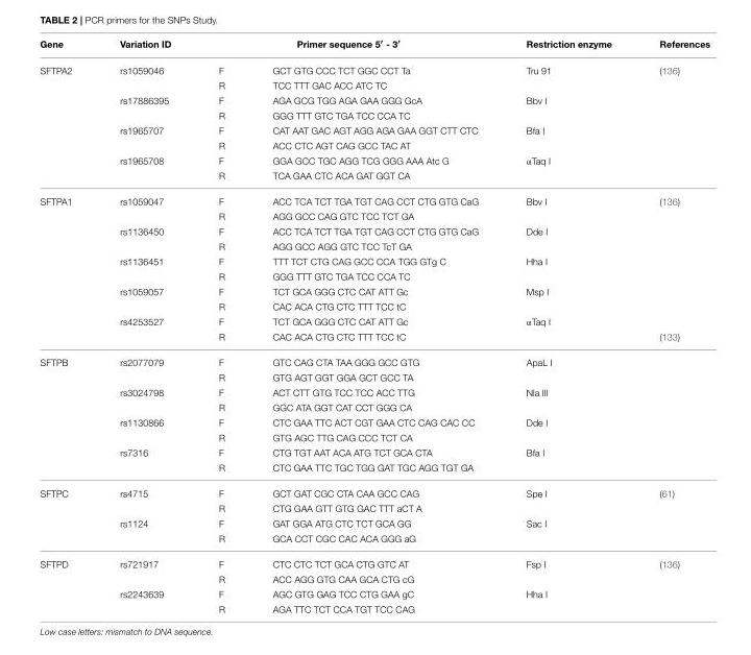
<table><thead><tr><td rowspan="2">Gene SFTPA2</td><td rowspan="2">Variation ID rs1059046</td><td colspan="2">Primer sequence 5<sup>′</sup> - 3<sup>′</sup></td><td rowspan="2">Restriction enzyme Tru 91</td><td rowspan="2">References (136)</td></tr><tr><td>F</td><td>GCT GTG CCC TCT GGC CCT Ta</td></tr></thead><tbody><tr><td></td><td></td><td>R</td><td>TCC TTT GAC ACC ATC TC</td><td></td><td></td></tr><tr><td></td><td>rs17886395</td><td>F</td><td>AGA GCG TGG AGA GAA GGG GcA</td><td>Bbv I</td><td></td></tr><tr><td></td><td></td><td>R</td><td>GGG TTT GTC TGA TCC CCA TC</td><td></td><td></td></tr><tr><td></td><td>rs1965707</td><td>F</td><td>CAT AAT GAC AGT AGG AGA GAA GGT CTT CTC</td><td>Bfa I</td><td></td></tr><tr><td></td><td></td><td>R</td><td>ACC CTC AGT CAG GCC TAC AT</td><td></td><td></td></tr><tr><td></td><td>rs1965708</td><td>F</td><td>GGA GCC TGC AGG TCG GGG AAA Atc G</td><td>αTaq I</td><td></td></tr><tr><td></td><td></td><td>R</td><td>TCA GAA CTC ACA GAT GGT CA</td><td></td><td></td></tr><tr><td rowspan="10">SFTPA1</td><td>rs1059047</td><td>F</td><td>ACC TCA TCT TGA TGT CAG CCT CTG GTG CaG</td><td>Bbv I</td><td>(136)</td></tr><tr><td></td><td>R</td><td>AGG GCC CAG GTC TCC TCT GA</td><td></td><td></td></tr><tr><td>rs1136450</td><td>F</td><td>ACC TCA TCT TGA TGT CAG CCT CTG GTG CaG</td><td>Dde I</td><td></td></tr><tr><td></td><td>R</td><td>AGG GCC AGG GTC TCC TcT GA</td><td></td><td></td></tr><tr><td>rs1136451</td><td>F</td><td>TTT TCT CTG CAG GCC CCA TGG GTg C</td><td>Hha I</td><td></td></tr><tr><td></td><td>R</td><td>GGG TTT GTC TGA TCC CCA TC</td><td></td><td></td></tr><tr><td>rs1059057</td><td>F</td><td>TCT GCA GGG CTC CAT ATT Gc</td><td>Msp I</td><td></td></tr><tr><td></td><td>R</td><td>CAC ACA CTG CTC TTT TCC tC</td><td></td><td></td></tr><tr><td>rs4253527</td><td>F</td><td>TCT GCA GGG CTC CAT ATT Gc</td><td>αTaq I</td><td></td></tr><tr><td></td><td>R</td><td>CAC ACA CTG CTC TTT TCC tC</td><td></td><td>(133)</td></tr><tr><td rowspan="8">SFTPB</td><td>rs2077079</td><td>F</td><td>GTC CAG CTA TAA GGG GCC GTG</td><td>ApaL I</td><td></td></tr><tr><td></td><td>R</td><td>GTG AGT GGT GGA GCT GCC TA</td><td></td><td></td></tr><tr><td>rs3024798</td><td>F</td><td>ACT CTT GTG TCC TCC ACC TTG</td><td>Nla III</td><td></td></tr><tr><td></td><td>R</td><td>GGC ATA GGT CAT CCT GGG CA</td><td></td><td></td></tr><tr><td>rs1130866</td><td>F</td><td>CTC GAA TTC ACT CGT GAA CTC CAG CAC CC</td><td>Dde I</td><td></td></tr><tr><td></td><td>R</td><td>GTG AGC TTG CAG CCC TCT CA</td><td></td><td></td></tr><tr><td>rs7316</td><td>F</td><td>CTG TGT AAT ACA ATG TCT GCA CTA</td><td>Bfa I</td><td></td></tr><tr><td></td><td>R</td><td>CTC GAA TTC TGC TGG GAT TGC AGG TGT GA</td><td></td><td></td></tr><tr><td rowspan="4">SFTPC</td><td>rs4715</td><td>F</td><td>GCT GAT CGC CTA CAA GCC CAG</td><td>Spe I</td><td>(61)</td></tr><tr><td></td><td>R</td><td>CTG GAA GTT GTG GAC TTT aCT A</td><td></td><td></td></tr><tr><td>rs1124</td><td>F</td><td>GAT GGA ATG CTC TCT GCA GG</td><td>Sac I</td><td></td></tr><tr><td></td><td>R</td><td>GCA CCT CGC CAC ACA GGG aG</td><td></td><td></td></tr><tr><td rowspan="4">SFTPD</td><td>rs721917</td><td>F</td><td>CTC CTC TCT GCA CTG GTC AT</td><td>Fsp I</td><td>(136)</td></tr><tr><td></td><td>R</td><td>ACC AGG GTG CAA GCA CTG cG</td><td></td><td></td></tr><tr><td>rs2243639</td><td>F</td><td>AGC GTG GAG TCC CTG GAA gC</td><td>Hha I</td><td></td></tr><tr><td></td><td>R</td><td>AGA TTC TCT CCA TGT TCC CAG</td><td></td><td></td></tr></tbody></table>